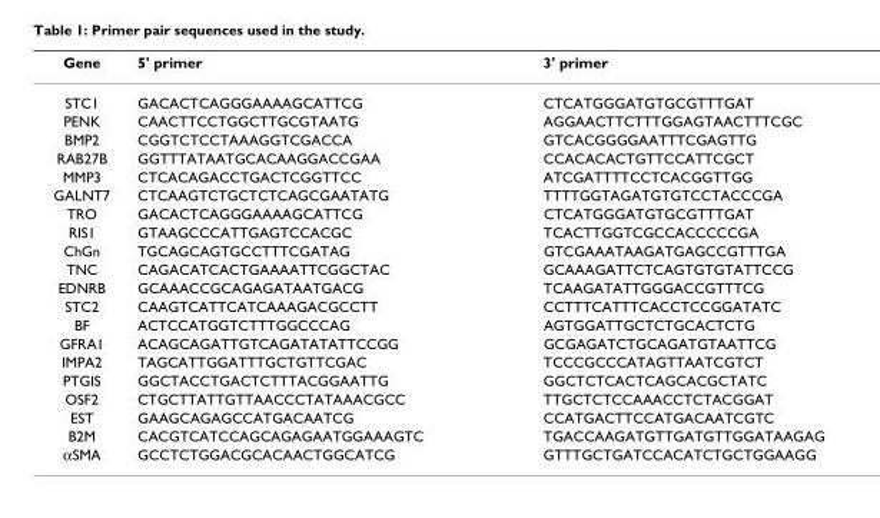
<table><thead><tr><td>Gene</td><td>5&#x27; primer</td><td>3&#x27; primer</td></tr></thead><tbody><tr><td>STC1</td><td>GACACTCAGGGAAAAGCATTCG</td><td>CTCATGGGATGTGCGTTTGAT</td></tr><tr><td>PENK</td><td>CAACTTCCTGGCTTGCGTAATG</td><td>AGGAACTTCTTTGGAGTAACTTTCGC</td></tr><tr><td>BMP2</td><td>CGGTCTCCTAAAGGTCGACCA</td><td>GTCACGGGGAATTTCGAGTTG</td></tr><tr><td>RAB27B</td><td>GGTTTATAATGCACAAGGACCGAA</td><td>CCACACACTGTTCCATTCGCT</td></tr><tr><td>MMP3</td><td>CTCACAGACCTGACTCGGTTCC</td><td>ATCGATTTTCCTCACGGTTGG</td></tr><tr><td>GALNT7</td><td>CTCAAGTCTGCTCTCAGCGAATATG</td><td>TTTTGGTAGATGTGTCCTACCCGA</td></tr><tr><td>TRO</td><td>GACACTCAGGGAAAAGCATTCG</td><td>CTCATGGGATGTGCGTTTGAT</td></tr><tr><td>RIS1</td><td>GTAAGCCCATTGAGTCCACGC</td><td>TCACTTGGTCGCCACCCCCGA</td></tr><tr><td>ChGn</td><td>TGCAGCAGTGCCTTTCGATAG</td><td>GTCGAAATAAGATGAGCCGTTTGA</td></tr><tr><td>TNC</td><td>CAGACATCACTGAAAATTCGGCTAC</td><td>GCAAAGATTCTCAGTGTGTATTCCG</td></tr><tr><td>EDNRB</td><td>GCAAACCGCAGAGATAATGACG</td><td>TCAAGATATTGGGACCGTTTCG</td></tr><tr><td>STC2</td><td>CAAGTCATTCATCAAAGACGCCTT</td><td>CCTTTCATTTCACCTCCGGATATC</td></tr><tr><td>BF</td><td>ACTCCATGGTCTTTGGCCCAG</td><td>AGTGGATTGCTCTGCACTCTG</td></tr><tr><td>GFRA1</td><td>ACAGCAGATTGTCAGATATATTCCGG</td><td>GCGAGATCTGCAGATGTAATTCG</td></tr><tr><td>IMPA2</td><td>TAGCATTGGATTTGCTGTTCGAC</td><td>TCCCGCCCATAGTTAATCGTCT</td></tr><tr><td>PTGIS</td><td>GGCTACCTGACTCTTTACGGAATTG</td><td>GGCTCTCACTCAGCACGCTATC</td></tr><tr><td>OSF2</td><td>CTGCTTATTGTTAACCCTATAAACGCC</td><td>TTGCTCTCCAAACCTCTACGGAT</td></tr><tr><td>EST</td><td>GAAGCAGAGCCATGACAATCG</td><td>CCATGACTTCCATGACAATCGTC</td></tr><tr><td>B2M</td><td>CACGTCATCCAGCAGAGAATGGAAAGTC</td><td>TGACCAAGATGTTGATGTTGGATAAGAG</td></tr><tr><td>αSMA</td><td>GCCTCTGGACGCACAACTGGCATCG</td><td>GTTTGCTGATCCACATCTGCTGGAAGG</td></tr></tbody></table>